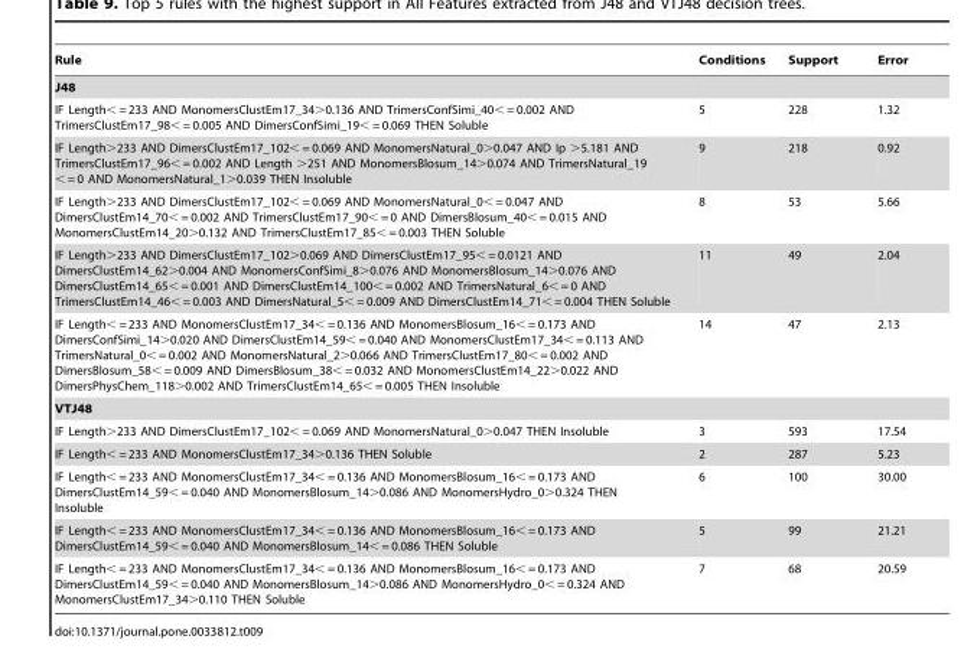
<table><thead><tr><td>Rule</td><td>Conditions</td><td>Support</td><td>Error</td></tr></thead><tbody><tr><td colspan="4">J48</td></tr><tr><td>IF Length&lt; = 233 AND MonomersClustEm17_34&gt;0.136 AND TrimersConfSimi_40&lt; = 0.002 AND TrimersClustEm17_98&lt; = 0.005 AND DimersConfSimi_19&lt; = 0.069 THEN Soluble</td><td>5</td><td>228</td><td>1.32</td></tr><tr><td>IF Length&gt;233 AND DimersClustEm17_102&lt; = 0.069 AND MonomersNatural_0&gt;0.047 AND Ip &gt;5.181 AND TrimersClustEm17_96&lt; = 0.002 AND Length &gt;251 AND MonomersBlosum_14&gt;0.074 AND TrimersNatural_19 &lt; = 0 AND MonomersNatural_1&gt;0.039 THEN Insoluble</td><td>9</td><td>218</td><td>0.92</td></tr><tr><td>IF Length&gt;233 AND DimersClustEm17_102&lt; = 0.069 AND MonomersNatural_0&lt; = 0.047 AND DimersClustEm14_70&lt; = 0.002 AND TrimersClustEm17_90&lt; = 0 AND DimersBlosum_40&lt; = 0.015 AND MonomersClustEm14_20&gt;0.132 AND TrimersClustEm17_85&lt; = 0.003 THEN Soluble</td><td>8</td><td>53</td><td>5.66</td></tr><tr><td>IF Length&gt;233 AND DimersClustEm17_102&gt;0.069 AND DimersClustEm17_95&lt; = 0.0121 AND DimersClustEm14_62&gt;0.004 AND MonomersConfSimi_8&gt;0.076 AND MonomersBlosum_14&gt;0.076 AND DimersClustEm14_65&lt; = 0.001 AND DimersClustEm14_100&lt; = 0.002 AND TrimersNatural_6&lt; = 0 AND TrimersClustEm14_46&lt; = 0.003 AND DimersNatural_5&lt; = 0.009 AND DimersClustEm14_71&lt; = 0.004 THEN Soluble</td><td>11</td><td>49</td><td>2.04</td></tr><tr><td>IF Length&lt; = 233 AND MonomersClustEm17_34&lt; = 0.136 AND MonomersBlosum_16&lt; = 0.173 AND DimersConfSimi_14&gt;0.020 AND DimersClustEm14_59&lt; = 0.040 AND MonomersClustEm17_34&lt; = 0.113 AND TrimersNatural_0&lt; = 0.002 AND MonomersNatural_2&gt;0.066 AND TrimersClustEm17_80&lt; = 0.002 AND DimersBlosum_58&lt; = 0.009 AND DimersBlosum_38&lt; = 0.032 AND MonomersClustEm14_22&gt;0.022 AND DimersPhysChem_118&gt;0.002 AND TrimersClustEm14_65&lt; = 0.005 THEN Insoluble</td><td>14</td><td>47</td><td>2.13</td></tr><tr><td colspan="4">VTJ48</td></tr><tr><td>IF Length&gt;233 AND DimersClustEm17_102&lt; = 0.069 AND MonomersNatural_0&gt;0.047 THEN Insoluble</td><td>3</td><td>593</td><td>17.54</td></tr><tr><td>IF Length&lt; = 233 AND MonomersClustEm17_34&gt;0.136 THEN Soluble</td><td>2</td><td>287</td><td>5.23</td></tr><tr><td>IF Length&lt; = 233 AND MonomersClustEm17_34&lt; = 0.136 AND MonomersBlosum_16&lt; = 0.173 AND DimersClustEm14_59&lt; = 0.040 AND MonomersBlosum_14&gt;0.086 AND MonomersHydro_0&gt;0.324 THEN Insoluble</td><td>6</td><td>100</td><td>30.00</td></tr><tr><td>IF Length&lt; = 233 AND MonomersClustEm17_34&lt; = 0.136 AND MonomersBlosum_16&lt; = 0.173 AND DimersClustEm14_59&lt; = 0.040 AND MonomersBlosum_14&lt; = 0.086 THEN Soluble</td><td>5</td><td>99</td><td>21.21</td></tr><tr><td>IF Length&lt; = 233 AND MonomersClustEm17_34&lt; = 0.136 AND MonomersBlosum_16&lt; = 0.173 AND DimersClustEm14_59&lt; = 0.040 AND MonomersBlosum_14&gt;0.086 AND MonomersHydro_0&lt; = 0.324 AND MonomersClustEm17_34&gt;0.110 THEN Soluble</td><td>7</td><td>68</td><td>20.59</td></tr></tbody></table>